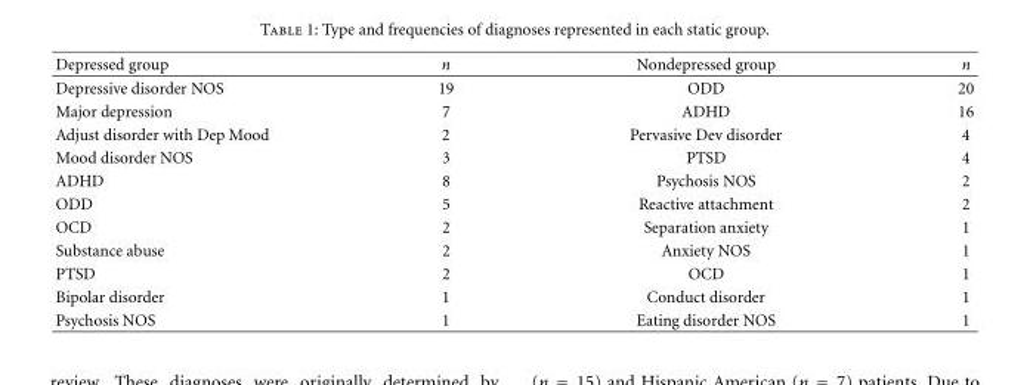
<table><thead><tr><td>Depressed group</td><td>n</td><td>Nondepressed group</td><td>n</td></tr></thead><tbody><tr><td>Depressive disorder NOS</td><td>19</td><td>ODD</td><td>20</td></tr><tr><td>Major depression</td><td>7</td><td>ADHD</td><td>16</td></tr><tr><td>Adjust disorder with Dep Mood</td><td>2</td><td>Pervasive Dev disorder</td><td>4</td></tr><tr><td>Mood disorder NOS</td><td>3</td><td>PTSD</td><td>4</td></tr><tr><td>ADHD</td><td>8</td><td>Psychosis NOS</td><td>2</td></tr><tr><td>ODD</td><td>5</td><td>Reactive attachment</td><td>2</td></tr><tr><td>OCD</td><td>2</td><td>Separation anxiety</td><td>1</td></tr><tr><td>Substance abuse</td><td>2</td><td>Anxiety NOS</td><td>1</td></tr><tr><td>PTSD</td><td>2</td><td>OCD</td><td>1</td></tr><tr><td>Bipolar disorder</td><td>1</td><td>Conduct disorder</td><td>1</td></tr><tr><td>Psychosis NOS</td><td>1</td><td>Eating disorder NOS</td><td>1</td></tr></tbody></table>